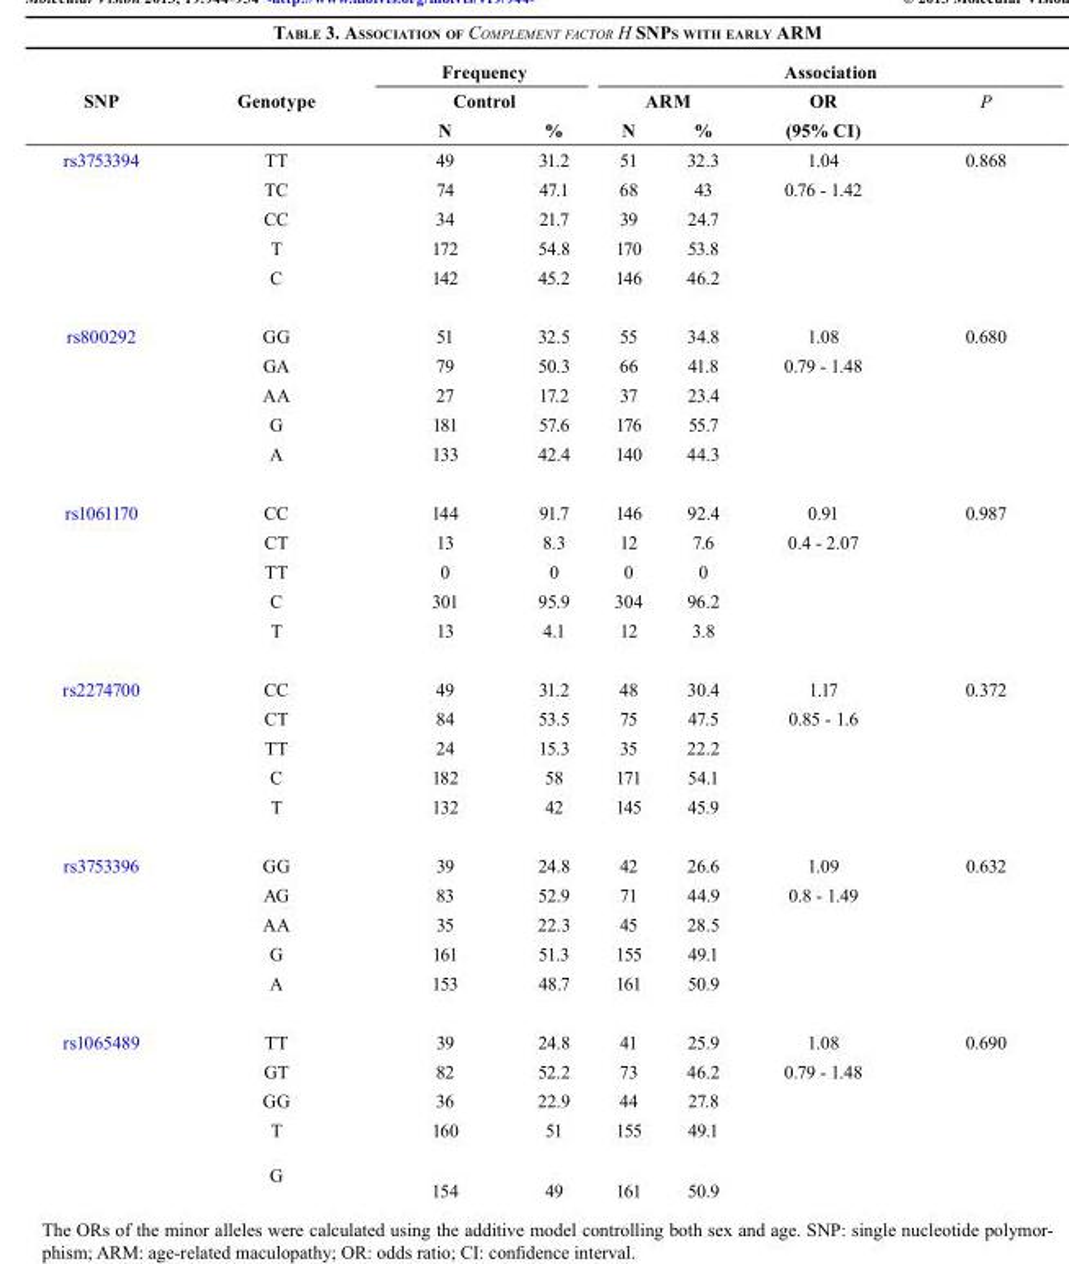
<table><thead><tr><td rowspan="3">SNP</td><td rowspan="3">Genotype</td><td rowspan="2" colspan="2">Frequency Control</td><td colspan="4">Association</td></tr><tr><td colspan="2">ARM</td><td rowspan="2">OR (95% CI)</td><td rowspan="2">P</td></tr><tr><td>N</td><td>%</td><td>N</td><td>%</td></tr></thead><tbody><tr><td rowspan="5">rs3753394</td><td>TT</td><td>49</td><td>31.2</td><td>51</td><td>32.3</td><td>1.04</td><td>0.868</td></tr><tr><td>TC</td><td>74</td><td>47.1</td><td>68</td><td>43</td><td>0.76 - 1.42</td><td></td></tr><tr><td>CC</td><td>34</td><td>21.7</td><td>39</td><td>24.7</td><td></td><td></td></tr><tr><td>T</td><td>172</td><td>54.8</td><td>170</td><td>53.8</td><td></td><td></td></tr><tr><td>C</td><td>142</td><td>45.2</td><td>146</td><td>46.2</td><td></td><td></td></tr><tr><td rowspan="5">rs800292</td><td>GG</td><td>51</td><td>32.5</td><td>55</td><td>34.8</td><td>1.08</td><td>0.680</td></tr><tr><td>GA</td><td>79</td><td>50.3</td><td>66</td><td>41.8</td><td>0.79 - 1.48</td><td></td></tr><tr><td>AA</td><td>27</td><td>17.2</td><td>37</td><td>23.4</td><td></td><td></td></tr><tr><td>G</td><td>181</td><td>57.6</td><td>176</td><td>55.7</td><td></td><td></td></tr><tr><td>A</td><td>133</td><td>42.4</td><td>140</td><td>44.3</td><td></td><td></td></tr><tr><td rowspan="5">rs1061170</td><td>CC</td><td>144</td><td>91.7</td><td>146</td><td>92.4</td><td>0.91</td><td>0.987</td></tr><tr><td>CT</td><td>13</td><td>8.3</td><td>12</td><td>7.6</td><td>0.4 - 2.07</td><td></td></tr><tr><td>TT</td><td>0</td><td>0</td><td>0</td><td>0</td><td></td><td></td></tr><tr><td>C</td><td>301</td><td>95.9</td><td>304</td><td>96.2</td><td></td><td></td></tr><tr><td>T</td><td>13</td><td>4.1</td><td>12</td><td>3.8</td><td></td><td></td></tr><tr><td rowspan="5">rs2274700</td><td>CC</td><td>49</td><td>31.2</td><td>48</td><td>30.4</td><td>1.17</td><td>0.372</td></tr><tr><td>CT</td><td>84</td><td>53.5</td><td>75</td><td>47.5</td><td>0.85 - 1.6</td><td></td></tr><tr><td>TT</td><td>24</td><td>15.3</td><td>35</td><td>22.2</td><td></td><td></td></tr><tr><td>C</td><td>182</td><td>58</td><td>171</td><td>54.1</td><td></td><td></td></tr><tr><td>T</td><td>132</td><td>42</td><td>145</td><td>45.9</td><td></td><td></td></tr><tr><td rowspan="5">rs3753396</td><td>GG</td><td>39</td><td>24.8</td><td>42</td><td>26.6</td><td>1.09</td><td>0.632</td></tr><tr><td>AG</td><td>83</td><td>52.9</td><td>71</td><td>44.9</td><td>0.8 - 1.49</td><td></td></tr><tr><td>AA</td><td>35</td><td>22.3</td><td>45</td><td>28.5</td><td></td><td></td></tr><tr><td>G</td><td>161</td><td>51.3</td><td>155</td><td>49.1</td><td></td><td></td></tr><tr><td>A</td><td>153</td><td>48.7</td><td>161</td><td>50.9</td><td></td><td></td></tr><tr><td rowspan="5">rs1065489</td><td>TT</td><td>39</td><td>24.8</td><td>41</td><td>25.9</td><td>1.08</td><td>0.690</td></tr><tr><td>GT</td><td>82</td><td>52.2</td><td>73</td><td>46.2</td><td>0.79 - 1.48</td><td></td></tr><tr><td>GG</td><td>36</td><td>22.9</td><td>44</td><td>27.8</td><td></td><td></td></tr><tr><td>T</td><td>160</td><td>51</td><td>155</td><td>49.1</td><td></td><td></td></tr><tr><td>G</td><td>154</td><td>49</td><td>161</td><td>50.9</td><td></td><td></td></tr></tbody></table>